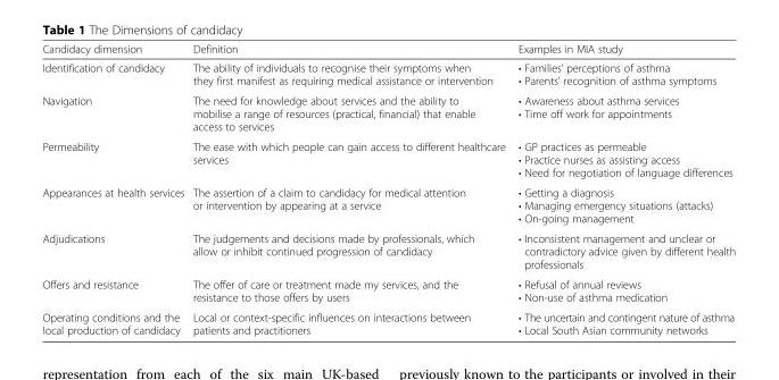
<table><thead><tr><td>Candidacy dimension</td><td>Definition</td><td>Examples in MIA study</td></tr></thead><tbody><tr><td>Identification of candidacy</td><td>The ability of individuals to recognise their symptoms when they first manifest as requiring medical assistance or intervention</td><td>• Families’ perceptions of asthma • Parents’ recognition of asthma symptoms</td></tr><tr><td>Navigation</td><td>The need for knowledge about services and the ability to mobilise a range of resources (practical, financial) that enable access to services</td><td>• Awareness about asthma services • Time off work for appointments</td></tr><tr><td>Permeability</td><td>The ease with which people can gain access to different healthcare services</td><td>• GP practices as permeable • Practice nurses as assisting access • Need for negotiation of language differences</td></tr><tr><td>Appearances at health services</td><td>The assertion of a claim to candidacy for medical attention or intervention by appearing at a service</td><td>• Getting a diagnosis • Managing emergency situations (attacks) • On-going management</td></tr><tr><td>Adjudications</td><td>The judgements and decisions made by professionals, which allow or inhibit continued progression of candidacy</td><td>• Inconsistent management and unclear or contradictory advice given by different health professionals</td></tr><tr><td>Offers and resistance</td><td>The offer of care or treatment made my services, and the resistance to those offers by users</td><td>• Refusal of annual reviews • Non-use of asthma medication</td></tr><tr><td>Operating conditions and the local production of candidacy</td><td>Local or context-specific influences on interactions between patients and practitioners</td><td>• The uncertain and contingent nature of asthma • Local South Asian community networks</td></tr></tbody></table>